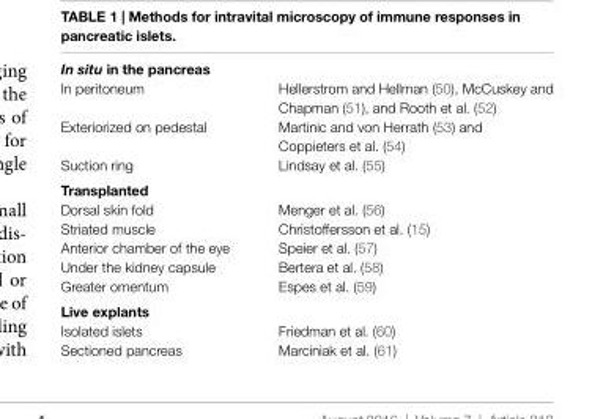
<table><tbody><tr><td colspan="2">In situ in the pancreas</td></tr><tr><td>In peritoneum</td><td>Hellerstrom and Hellman (50), McCuskey and Chapman (51), and Rooth et al. (52)</td></tr><tr><td>Exteriorized on pedestal</td><td>Martinic and von Herrath (53) and Coppieters et al. (54)</td></tr><tr><td>Suction ring</td><td>Lindsay et al. (55)</td></tr><tr><td colspan="2">Transplanted</td></tr><tr><td>Dorsal skin fold</td><td>Menger et al. (56)</td></tr><tr><td>Striated muscle</td><td>Christoffersson et al. (15)</td></tr><tr><td>Anterior chamber of the eye</td><td>Speier et al. (57)</td></tr><tr><td>Under the kidney capsule</td><td>Bertera et al. (58)</td></tr><tr><td>Greater omentum</td><td>Espes et al. (59)</td></tr><tr><td colspan="2">Live explants</td></tr><tr><td>Isolated islets</td><td>Friedman et al. (60)</td></tr><tr><td>Sectioned pancreas</td><td>Marciniak et al. (61)</td></tr></tbody></table>